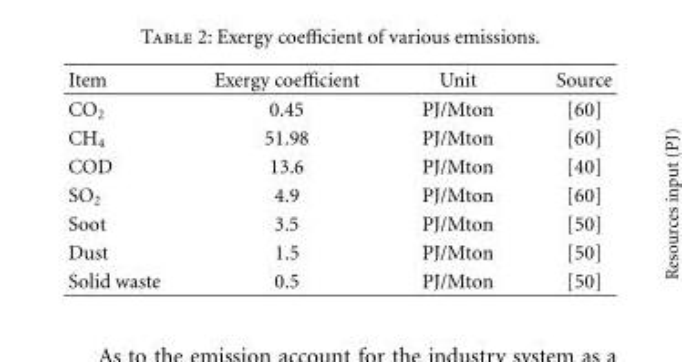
<table><thead><tr><td>Item</td><td>Exergy coefficient</td><td>Unit</td><td>Source</td></tr></thead><tbody><tr><td>CO<sub>2</sub></td><td>0.45</td><td>PJ/Mton</td><td>[60]</td></tr><tr><td>CH<sub>4</sub></td><td>51.98</td><td>PJ/Mton</td><td>[60]</td></tr><tr><td>COD</td><td>13.6</td><td>PJ/Mton</td><td>[40]</td></tr><tr><td>SO<sub>2</sub></td><td>4.9</td><td>PJ/Mton</td><td>[60]</td></tr><tr><td>Soot</td><td>3.5</td><td>PJ/Mton</td><td>[50]</td></tr><tr><td>Dust</td><td>1.5</td><td>PJ/Mton</td><td>[50]</td></tr><tr><td>Solid waste</td><td>0.5</td><td>PJ/Mton</td><td>[50]</td></tr></tbody></table>